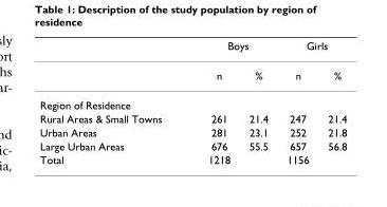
<table><thead><tr><td rowspan="2"></td><td colspan="2">Boys</td><td colspan="2">Girls</td></tr><tr><td>n</td><td>%</td><td>n</td><td>%</td></tr></thead><tbody><tr><td colspan="5">Region of Residence</td></tr><tr><td>Rural Areas &amp; Small Towns</td><td>261</td><td>21.4</td><td>247</td><td>21.4</td></tr><tr><td>Urban Areas</td><td>281</td><td>23.1</td><td>252</td><td>21.8</td></tr><tr><td>Large Urban Areas</td><td>676</td><td>55.5</td><td>657</td><td>56.8</td></tr><tr><td>Total</td><td>1218</td><td></td><td>1156</td><td></td></tr></tbody></table>